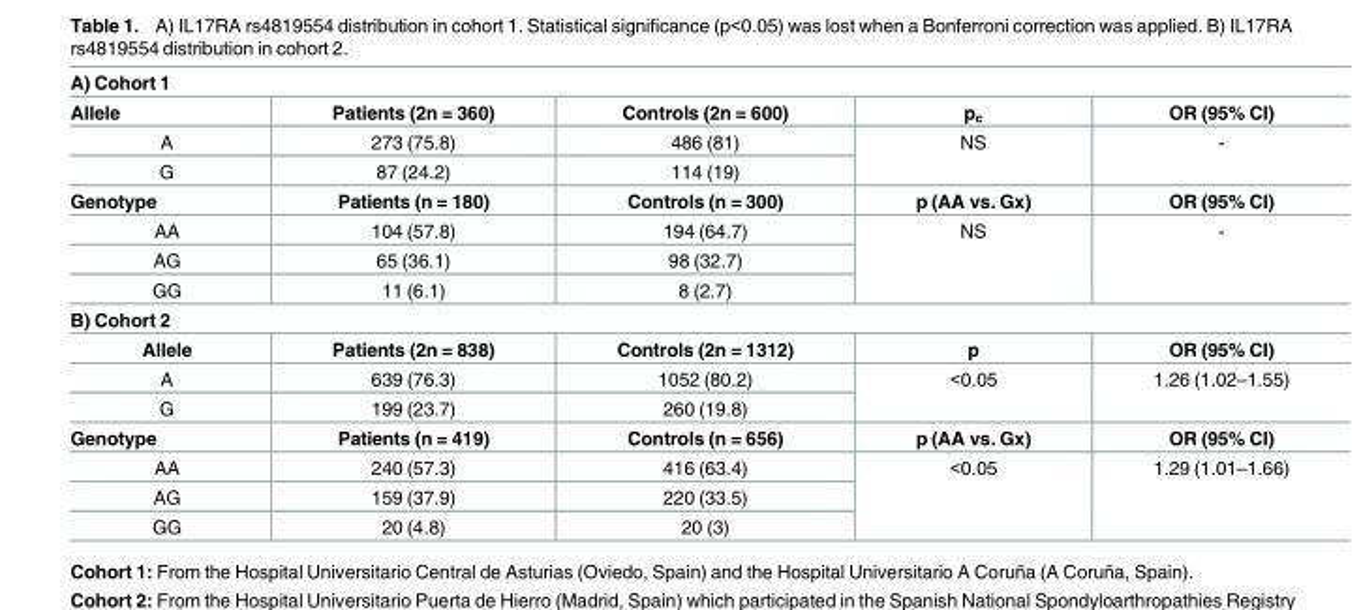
<table><tbody><tr><td colspan="5">A) Cohort 1</td></tr><tr><td>Allele</td><td>Patients (2n = 360)</td><td>Controls (2n = 600)</td><td>p<sub>c</sub></td><td>OR (95% CI)</td></tr><tr><td>A</td><td>273 (75.8)</td><td>486 (81)</td><td rowspan="2">NS</td><td rowspan="2">-</td></tr><tr><td>G</td><td>87 (24.2)</td><td>114 (19)</td></tr><tr><td>Genotype</td><td>Patients (n = 180)</td><td>Controls (n = 300)</td><td>p (AA vs. Gx)</td><td>OR (95% CI)</td></tr><tr><td>AA</td><td>104 (57.8)</td><td>194 (64.7)</td><td rowspan="3">NS</td><td rowspan="3">-</td></tr><tr><td>AG</td><td>65 (36.1)</td><td>98 (32.7)</td></tr><tr><td>GG</td><td>11 (6.1)</td><td>8 (2.7)</td></tr><tr><td colspan="5">B) Cohort 2</td></tr><tr><td>Allele</td><td>Patients (2n = 838)</td><td>Controls (2n = 1312)</td><td>p</td><td>OR (95% CI)</td></tr><tr><td>A</td><td>639 (76.3)</td><td>1052 (80.2)</td><td rowspan="2">&lt;0.05</td><td rowspan="2">1.26 (1.02–1.55)</td></tr><tr><td>G</td><td>199 (23.7)</td><td>260 (19.8)</td></tr><tr><td>Genotype</td><td>Patients (n = 419)</td><td>Controls (n = 656)</td><td>p (AA vs. Gx)</td><td>OR (95% CI)</td></tr><tr><td>AA</td><td>240 (57.3)</td><td>416 (63.4)</td><td rowspan="3">&lt;0.05</td><td rowspan="3">1.29 (1.01–1.66)</td></tr><tr><td>AG</td><td>159 (37.9)</td><td>220 (33.5)</td></tr><tr><td>GG</td><td>20 (4.8)</td><td>20 (3)</td></tr></tbody></table>